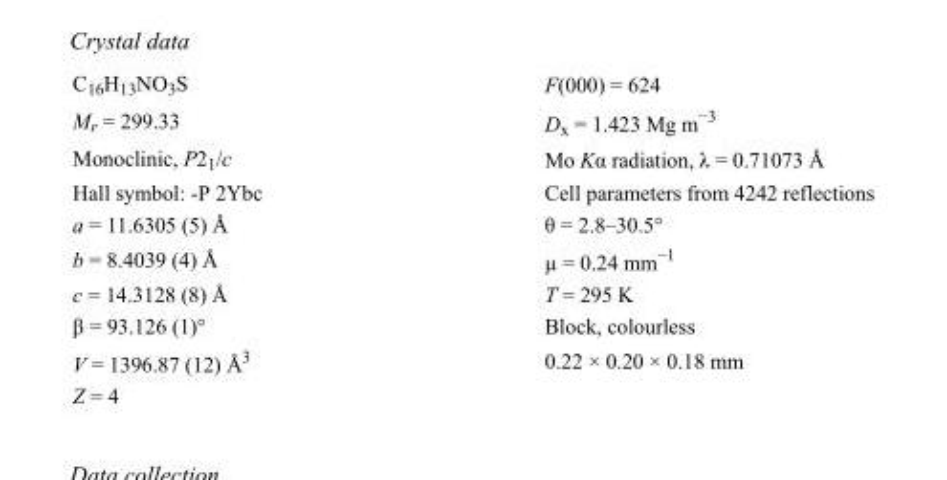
<table><tbody><tr><td>C<sub>16</sub>H<sub>13</sub>NO<sub>3</sub>S</td><td>F(000) = 624</td></tr><tr><td>M<sub>r</sub> = 299.33</td><td>D<sub>x</sub> = 1.423 Mg m<sup>−3</sup></td></tr><tr><td>Monoclinic, P2<sub>1</sub>/c</td><td>Mo Kα radiation, λ = 0.71073 Å</td></tr><tr><td>Hall symbol: -P 2Ybc</td><td>Cell parameters from 4242 reflections</td></tr><tr><td>a = 11.6305 (5) Å</td><td>θ = 2.8–30.5°</td></tr><tr><td>b = 8.4039 (4) Å</td><td>µ = 0.24 mm<sup>−1</sup></td></tr><tr><td>c = 14.3128 (8) Å</td><td>T = 295 K</td></tr><tr><td>β = 93.126 (1)°</td><td>Block, colourless</td></tr><tr><td>V = 1396.87 (12) Å<sup>3</sup></td><td>0.22 × 0.20 × 0.18 mm</td></tr><tr><td>Z = 4</td><td></td></tr></tbody></table>